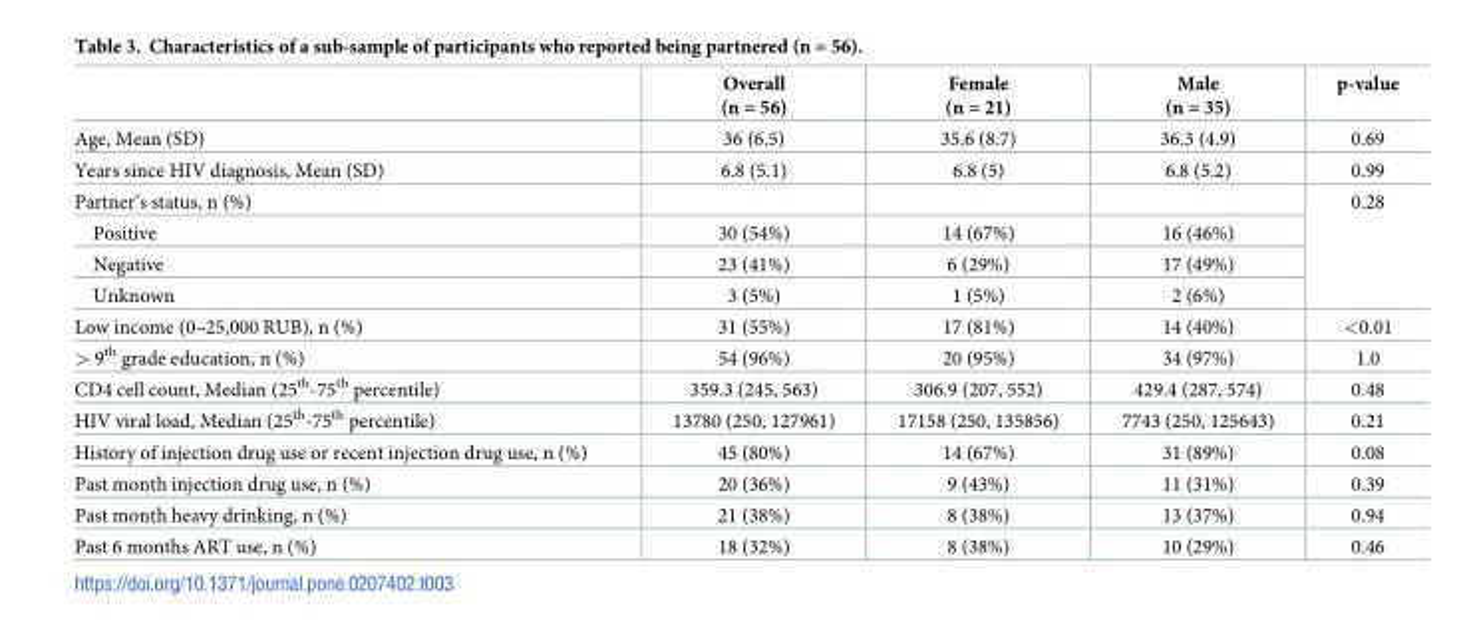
<table><thead><tr><td></td><td>Overall (n = 56)</td><td>Female (n = 21)</td><td>Male (n = 35)</td><td>p-value</td></tr></thead><tbody><tr><td>Age, Mean (SD)</td><td>36 (6.5)</td><td>35.6 (8.7)</td><td>36.3 (4.9)</td><td>0.69</td></tr><tr><td>Years since HIV diagnosis, Mean (SD)</td><td>6.8 (5.1)</td><td>6.8 (5)</td><td>6.8 (5.2)</td><td>0.99</td></tr><tr><td colspan="4">Partner’s status, n (%)</td><td rowspan="4">0.28</td></tr><tr><td>Positive</td><td>30 (54%)</td><td>14 (67%)</td><td>16 (46%)</td></tr><tr><td>Negative</td><td>23 (41%)</td><td>6 (29%)</td><td>17 (49%)</td></tr><tr><td>Unknown</td><td>3 (5%)</td><td>1 (5%)</td><td>2 (6%)</td></tr><tr><td>Low income (0–25,000 RUB), n (%)</td><td>31 (55%)</td><td>17 (81%)</td><td>14 (40%)</td><td>&lt;0.01</td></tr><tr><td>&gt; 9<sup>th</sup> grade education, n (%)</td><td>54 (96%)</td><td>20 (95%)</td><td>34 (97%)</td><td>1.0</td></tr><tr><td>CD4 cell count, Median (25<sup>th</sup>-75<sup>th</sup> percentile)</td><td>359.3 (245, 563)</td><td>306.9 (207, 552)</td><td>429.4 (287, 574)</td><td>0.48</td></tr><tr><td>HIV viral load, Median (25<sup>th</sup>-75<sup>th</sup> percentile)</td><td>13780 (250, 127961)</td><td>17158 (250, 135856)</td><td>7743 (250, 125643)</td><td>0.21</td></tr><tr><td>History of injection drug use or recent injection drug use, n (%)</td><td>45 (80%)</td><td>14 (67%)</td><td>31 (89%)</td><td>0.08</td></tr><tr><td>Past month injection drug use, n (%)</td><td>20 (36%)</td><td>9 (43%)</td><td>11 (31%)</td><td>0.39</td></tr><tr><td>Past month heavy drinking, n (%)</td><td>21 (38%)</td><td>8 (38%)</td><td>13 (37%)</td><td>0.94</td></tr><tr><td>Past 6 months ART use, n (%)</td><td>18 (32%)</td><td>8 (38%)</td><td>10 (29%)</td><td>0.46</td></tr></tbody></table>